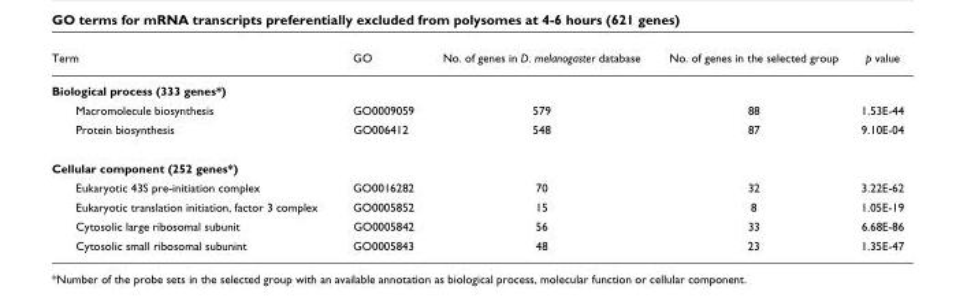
<table><thead><tr><td>Term</td><td>GO</td><td>No. of genes in D. melanogaster database</td><td>No. of genes in the selected group</td><td>p value</td></tr></thead><tbody><tr><td colspan="5">Biological process (333 genes*)</td></tr><tr><td>Macromolecule biosynthesis</td><td>GO0009059</td><td>579</td><td>88</td><td>1.53E-44</td></tr><tr><td>Protein biosynthesis</td><td>GO006412</td><td>548</td><td>87</td><td>9.10E-04</td></tr><tr><td colspan="5">Cellular component (252 genes*)</td></tr><tr><td>Eukaryotic 43S pre-initiation complex</td><td>GO0016282</td><td>70</td><td>32</td><td>3.22E-62</td></tr><tr><td>Eukaryotic translation initiation, factor 3 complex</td><td>GO0005852</td><td>15</td><td>8</td><td>1.05E-19</td></tr><tr><td>Cytosolic large ribosomal subunit</td><td>GO0005842</td><td>56</td><td>33</td><td>6.68E-86</td></tr><tr><td>Cytosolic small ribosomal subunint</td><td>GO0005843</td><td>48</td><td>23</td><td>1.35E-47</td></tr></tbody></table>